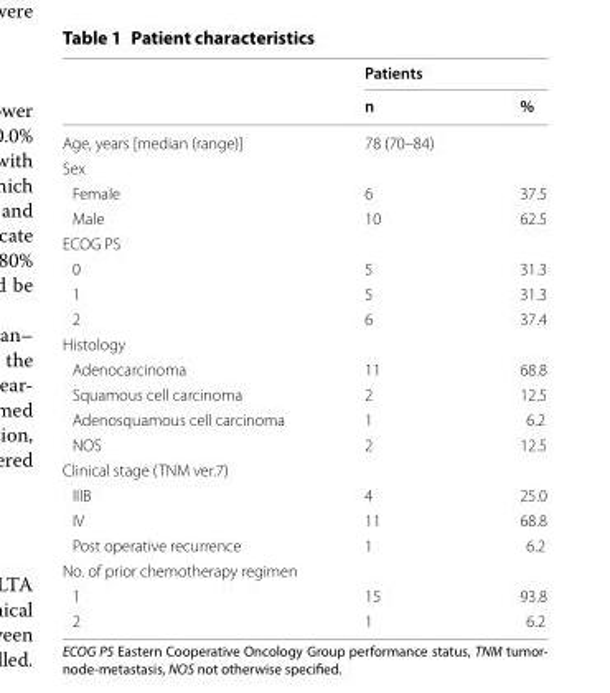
<table><thead><tr><td rowspan="2"></td><td colspan="2">Patients</td></tr><tr><td>n</td><td>%</td></tr></thead><tbody><tr><td>Age, years [median (range)]</td><td>78 (70–84)</td><td></td></tr><tr><td colspan="3">Sex</td></tr><tr><td>Female</td><td>6</td><td>37.5</td></tr><tr><td>Male</td><td>10</td><td>62.5</td></tr><tr><td colspan="3">ECOG PS</td></tr><tr><td>0</td><td>5</td><td>31.3</td></tr><tr><td>1</td><td>5</td><td>31.3</td></tr><tr><td>2</td><td>6</td><td>37.4</td></tr><tr><td colspan="3">Histology</td></tr><tr><td>Adenocarcinoma</td><td>11</td><td>68.8</td></tr><tr><td>Squamous cell carcinoma</td><td>2</td><td>12.5</td></tr><tr><td>Adenosquamous cell carcinoma</td><td>1</td><td>6.2</td></tr><tr><td>NOS</td><td>2</td><td>12.5</td></tr><tr><td colspan="3">Clinical stage (TNM ver.7)</td></tr><tr><td>IIIB</td><td>4</td><td>25.0</td></tr><tr><td>IV</td><td>11</td><td>68.8</td></tr><tr><td>Post operative recurrence</td><td>1</td><td>6.2</td></tr><tr><td colspan="3">No. of prior chemotherapy regimen</td></tr><tr><td>1</td><td>15</td><td>93.8</td></tr><tr><td>2</td><td>1</td><td>6.2</td></tr></tbody></table>